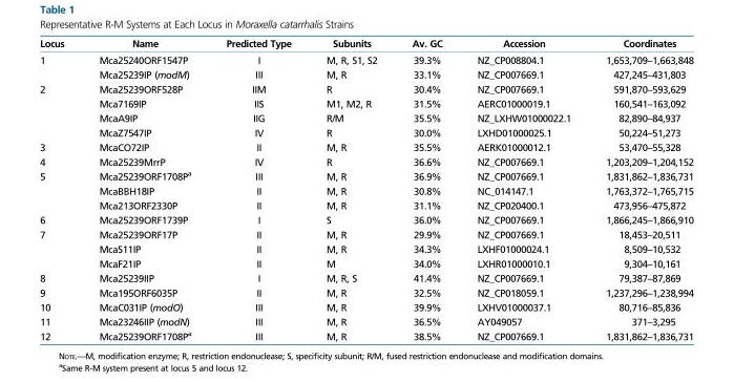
<table><thead><tr><td>Locus</td><td>Name</td><td>Predicted Type</td><td>Subunits</td><td>Av. GC</td><td>Accession</td><td>Coordinates</td></tr></thead><tbody><tr><td rowspan="2">1</td><td>Mca25240ORF1547P</td><td>I</td><td>M, R, S1, S2</td><td>39.3%</td><td>NZ_CP008804.1</td><td>1,653,709–1,663,848</td></tr><tr><td>Mca25239IP (modM)</td><td>III</td><td>M, R</td><td>33.1%</td><td>NZ_CP007669.1</td><td>427,245–431,803</td></tr><tr><td rowspan="4">2</td><td>Mca25239ORF528P</td><td>IIM</td><td>R</td><td>30.4%</td><td>NZ_CP007669.1</td><td>591,870–593,629</td></tr><tr><td>Mca7169IP</td><td>IIS</td><td>M1, M2, R</td><td>31.5%</td><td>AERC01000019.1</td><td>160,541–163,092</td></tr><tr><td>McaA9IP</td><td>IIG</td><td>R/M</td><td>35.5%</td><td>NZ_LXHW01000022.1</td><td>82,890–84,937</td></tr><tr><td>McaZ7547IP</td><td>IV</td><td>R</td><td>30.0%</td><td>LXHD01000025.1</td><td>50,224–51,273</td></tr><tr><td>3</td><td>McaCO72IP</td><td>II</td><td>M, R</td><td>35.5%</td><td>AERK01000012.1</td><td>53,470–55,328</td></tr><tr><td>4</td><td>Mca25239MrrP</td><td>IV</td><td>R</td><td>36.6%</td><td>NZ_CP007669.1</td><td>1,203,209–1,204,152</td></tr><tr><td rowspan="3">5</td><td>Mca25239ORF1708P<sup>a</sup></td><td>III</td><td>M, R</td><td>36.9%</td><td>NZ_CP007669.1</td><td>1,831,862–1,836,731</td></tr><tr><td>McaBBH18IP</td><td>II</td><td>M, R</td><td>30.8%</td><td>NC_014147.1</td><td>1,763,372–1,765,715</td></tr><tr><td>Mca213ORF2330P</td><td>II</td><td>M, R</td><td>31.1%</td><td>NZ_CP020400.1</td><td>473,956–475,872</td></tr><tr><td>6</td><td>Mca25239ORF1739P</td><td>I</td><td>S</td><td>36.0%</td><td>NZ_CP007669.1</td><td>1,866,245–1,866,910</td></tr><tr><td rowspan="3">7</td><td>Mca25239ORF17P</td><td>II</td><td>M, R</td><td>29.9%</td><td>NZ_CP007669.1</td><td>18,453–20,511</td></tr><tr><td>McaS11IP</td><td>II</td><td>M, R</td><td>34.3%</td><td>LXHF01000024.1</td><td>8,509–10,532</td></tr><tr><td>McaF21IP</td><td>II</td><td>M</td><td>34.0%</td><td>LXHR01000010.1</td><td>9,304–10,161</td></tr><tr><td>8</td><td>Mca25239IIP</td><td>I</td><td>M, R, S</td><td>41.4%</td><td>NZ_CP007669.1</td><td>79,387–87,869</td></tr><tr><td>9</td><td>Mca195ORF6035P</td><td>II</td><td>M, R</td><td>32.5%</td><td>NZ_CP018059.1</td><td>1,237,296–1,238,994</td></tr><tr><td>10</td><td>McaC031IP (modO)</td><td>III</td><td>M, R</td><td>39.9%</td><td>LXHV01000037.1</td><td>80,716–85,836</td></tr><tr><td>11</td><td>Mca23246IIP (modN)</td><td>III</td><td>M, R</td><td>36.5%</td><td>AY049057</td><td>371–3,295</td></tr><tr><td>12</td><td>Mca25239ORF1708P<sup>a</sup></td><td>III</td><td>M, R</td><td>38.5%</td><td>NZ_CP007669.1</td><td>1,831,862–1,836,731</td></tr></tbody></table>